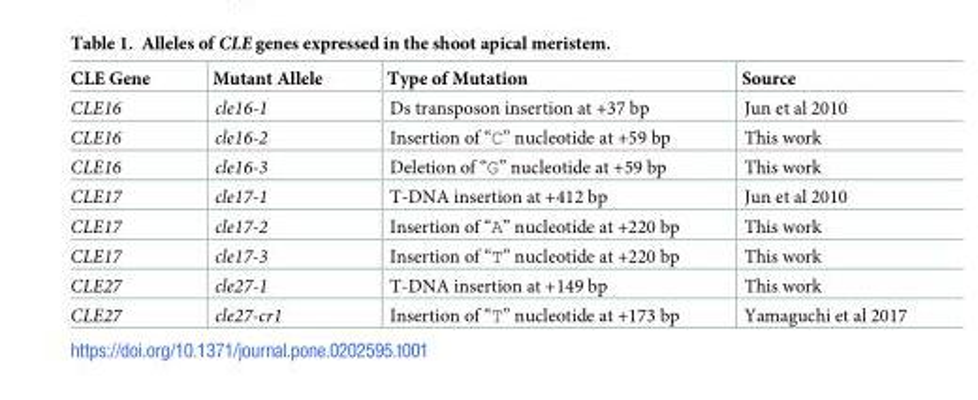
<table><thead><tr><td>CLE Gene</td><td>Mutant Allele</td><td>Type of Mutation</td><td>Source</td></tr></thead><tbody><tr><td>CLE16</td><td>cle16-1</td><td>Ds transposon insertion at +37 bp</td><td>Jun et al 2010</td></tr><tr><td>CLE16</td><td>cle16-2</td><td>Insertion of “C” nucleotide at +59 bp</td><td>This work</td></tr><tr><td>CLE16</td><td>cle16-3</td><td>Deletion of “G” nucleotide at +59 bp</td><td>This work</td></tr><tr><td>CLE17</td><td>cle17-1</td><td>T-DNA insertion at +412 bp</td><td>Jun et al 2010</td></tr><tr><td>CLE17</td><td>cle17-2</td><td>Insertion of “A” nucleotide at +220 bp</td><td>This work</td></tr><tr><td>CLE17</td><td>cle17-3</td><td>Insertion of “T” nucleotide at +220 bp</td><td>This work</td></tr><tr><td>CLE27</td><td>cle27-1</td><td>T-DNA insertion at +149 bp</td><td>This work</td></tr><tr><td>CLE27</td><td>cle27-cr1</td><td>Insertion of “T” nucleotide at +173 bp</td><td>Yamaguchi et al 2017</td></tr></tbody></table>